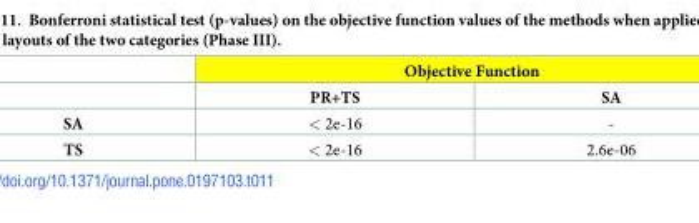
<table><thead><tr><td rowspan="2"></td><td colspan="2">Objective Function</td></tr><tr><td>PR+TS</td><td>SA</td></tr></thead><tbody><tr><td>SA</td><td>&lt; 2e-16</td><td>-</td></tr><tr><td>TS</td><td>&lt; 2e-16</td><td>2.6e-06</td></tr></tbody></table>